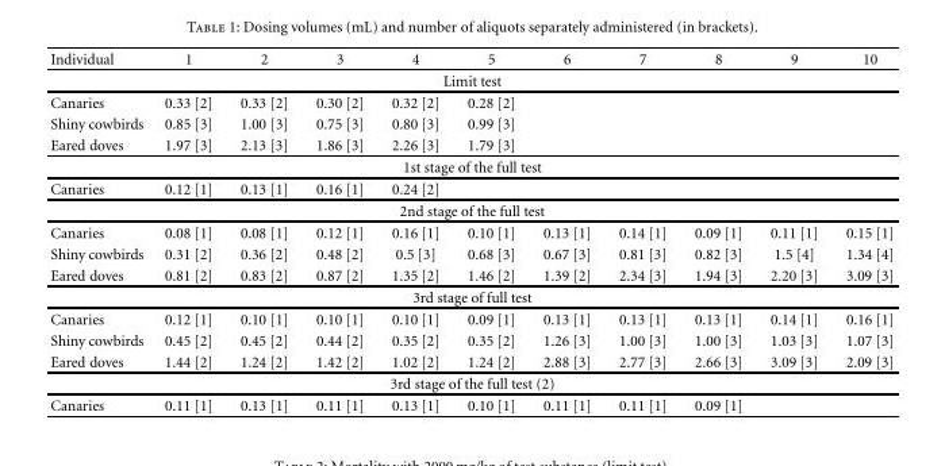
<table><thead><tr><td>Individual</td><td>1</td><td>2</td><td>3</td><td>4</td><td>5</td><td>6</td><td>7</td><td>8</td><td>9</td><td>10</td></tr></thead><tbody><tr><td colspan="11">Limit test</td></tr><tr><td>Canaries</td><td>0.33 [2]</td><td>0.33 [2]</td><td>0.30 [2]</td><td>0.32 [2]</td><td>0.28 [2]</td><td></td><td></td><td></td><td></td><td></td></tr><tr><td>Shiny cowbirds</td><td>0.85 [3]</td><td>1.00 [3]</td><td>0.75 [3]</td><td>0.80 [3]</td><td>0.99 [3]</td><td></td><td></td><td></td><td></td><td></td></tr><tr><td>Eared doves</td><td>1.97 [3]</td><td>2.13 [3]</td><td>1.86 [3]</td><td>2.26 [3]</td><td>1.79 [3]</td><td></td><td></td><td></td><td></td><td></td></tr><tr><td colspan="11">1st stage of the full test</td></tr><tr><td>Canaries</td><td>0.12 [1]</td><td>0.13 [1]</td><td>0.16 [1]</td><td>0.24 [2]</td><td></td><td></td><td></td><td></td><td></td><td></td></tr><tr><td colspan="11">2nd stage of the full test</td></tr><tr><td>Canaries</td><td>0.08 [1]</td><td>0.08 [1]</td><td>0.12 [1]</td><td>0.16 [1]</td><td>0.10 [1]</td><td>0.13 [1]</td><td>0.14 [1]</td><td>0.09 [1]</td><td>0.11 [1]</td><td>0.15 [1]</td></tr><tr><td>Shiny cowbirds</td><td>0.31 [2]</td><td>0.36 [2]</td><td>0.48 [2]</td><td>0.5 [3]</td><td>0.68 [3]</td><td>0.67 [3]</td><td>0.81 [3]</td><td>0.82 [3]</td><td>1.5 [4]</td><td>1.34 [4]</td></tr><tr><td>Eared doves</td><td>0.81 [2]</td><td>0.83 [2]</td><td>0.87 [2]</td><td>1.35 [2]</td><td>1.46 [2]</td><td>1.39 [2]</td><td>2.34 [3]</td><td>1.94 [3]</td><td>2.20 [3]</td><td>3.09 [3]</td></tr><tr><td colspan="11">3rd stage of full test</td></tr><tr><td>Canaries</td><td>0.12 [1]</td><td>0.10 [1]</td><td>0.10 [1]</td><td>0.10 [1]</td><td>0.09 [1]</td><td>0.13 [1]</td><td>0.13 [1]</td><td>0.13 [1]</td><td>0.14 [1]</td><td>0.16 [1]</td></tr><tr><td>Shiny cowbirds</td><td>0.45 [2]</td><td>0.45 [2]</td><td>0.44 [2]</td><td>0.35 [2]</td><td>0.35 [2]</td><td>1.26 [3]</td><td>1.00 [3]</td><td>1.00 [3]</td><td>1.03 [3]</td><td>1.07 [3]</td></tr><tr><td>Eared doves</td><td>1.44 [2]</td><td>1.24 [2]</td><td>1.42 [2]</td><td>1.02 [2]</td><td>1.24 [2]</td><td>2.88 [3]</td><td>2.77 [3]</td><td>2.66 [3]</td><td>3.09 [3]</td><td>2.09 [3]</td></tr><tr><td colspan="11">3rd stage of the full test (2)</td></tr><tr><td>Canaries</td><td>0.11 [1]</td><td>0.13 [1]</td><td>0.11 [1]</td><td>0.13 [1]</td><td>0.10 [1]</td><td>0.11 [1]</td><td>0.11 [1]</td><td>0.09 [1]</td><td></td><td></td></tr></tbody></table>